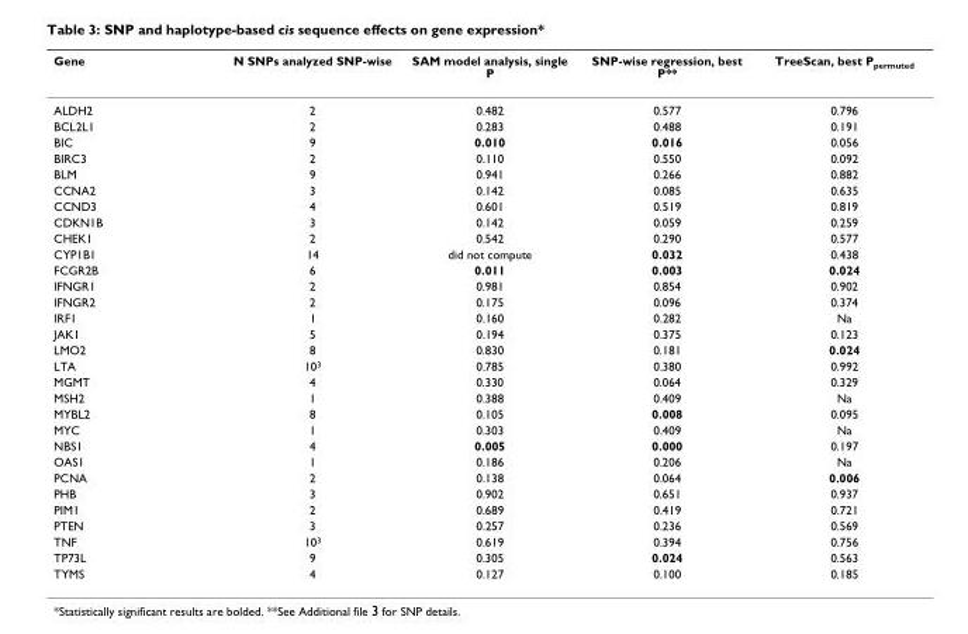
<table><thead><tr><td>Gene</td><td>N SNPs analyzed SNP-wise</td><td>SAM model analysis, single P</td><td>SNP-wise regression, best P**</td><td>TreeScan, best P<sub>permuted</sub></td></tr></thead><tbody><tr><td>ALDH2</td><td>2</td><td>0.482</td><td>0.577</td><td>0.796</td></tr><tr><td>BCL2L1</td><td>2</td><td>0.283</td><td>0.488</td><td>0.191</td></tr><tr><td>BIC</td><td>9</td><td>0.010</td><td>0.016</td><td>0.056</td></tr><tr><td>BIRC3</td><td>2</td><td>0.110</td><td>0.550</td><td>0.092</td></tr><tr><td>BLM</td><td>9</td><td>0.941</td><td>0.266</td><td>0.882</td></tr><tr><td>CCNA2</td><td>3</td><td>0.142</td><td>0.085</td><td>0.635</td></tr><tr><td>CCND3</td><td>4</td><td>0.601</td><td>0.519</td><td>0.819</td></tr><tr><td>CDKN1B</td><td>3</td><td>0.142</td><td>0.059</td><td>0.259</td></tr><tr><td>CHEK1</td><td>2</td><td>0.542</td><td>0.290</td><td>0.577</td></tr><tr><td>CYP1B1</td><td>14</td><td>did not compute</td><td>0.032</td><td>0.438</td></tr><tr><td>FCGR2B</td><td>6</td><td>0.011</td><td>0.003</td><td>0.024</td></tr><tr><td>IFNGR1</td><td>2</td><td>0.981</td><td>0.854</td><td>0.902</td></tr><tr><td>IFNGR2</td><td>2</td><td>0.175</td><td>0.096</td><td>0.374</td></tr><tr><td>IRF1</td><td>1</td><td>0.160</td><td>0.282</td><td>Na</td></tr><tr><td>JAK1</td><td>5</td><td>0.194</td><td>0.375</td><td>0.123</td></tr><tr><td>LMO2</td><td>8</td><td>0.830</td><td>0.181</td><td>0.024</td></tr><tr><td>LTA</td><td>10<sup>3</sup></td><td>0.785</td><td>0.380</td><td>0.992</td></tr><tr><td>MGMT</td><td>4</td><td>0.330</td><td>0.064</td><td>0.329</td></tr><tr><td>MSH2</td><td>1</td><td>0.388</td><td>0.409</td><td>Na</td></tr><tr><td>MYBL2</td><td>8</td><td>0.105</td><td>0.008</td><td>0.095</td></tr><tr><td>MYC</td><td>1</td><td>0.303</td><td>0.409</td><td>Na</td></tr><tr><td>NBS1</td><td>4</td><td>0.005</td><td>0.000</td><td>0.197</td></tr><tr><td>OAS1</td><td>1</td><td>0.186</td><td>0.206</td><td>Na</td></tr><tr><td>PCNA</td><td>2</td><td>0.138</td><td>0.064</td><td>0.006</td></tr><tr><td>PHB</td><td>3</td><td>0.902</td><td>0.651</td><td>0.937</td></tr><tr><td>PIM1</td><td>2</td><td>0.689</td><td>0.419</td><td>0.721</td></tr><tr><td>PTEN</td><td>3</td><td>0.257</td><td>0.236</td><td>0.569</td></tr><tr><td>TNF</td><td>10<sup>3</sup></td><td>0.619</td><td>0.394</td><td>0.756</td></tr><tr><td>TP73L</td><td>9</td><td>0.305</td><td>0.024</td><td>0.563</td></tr><tr><td>TYMS</td><td>4</td><td>0.127</td><td>0.100</td><td>0.185</td></tr></tbody></table>